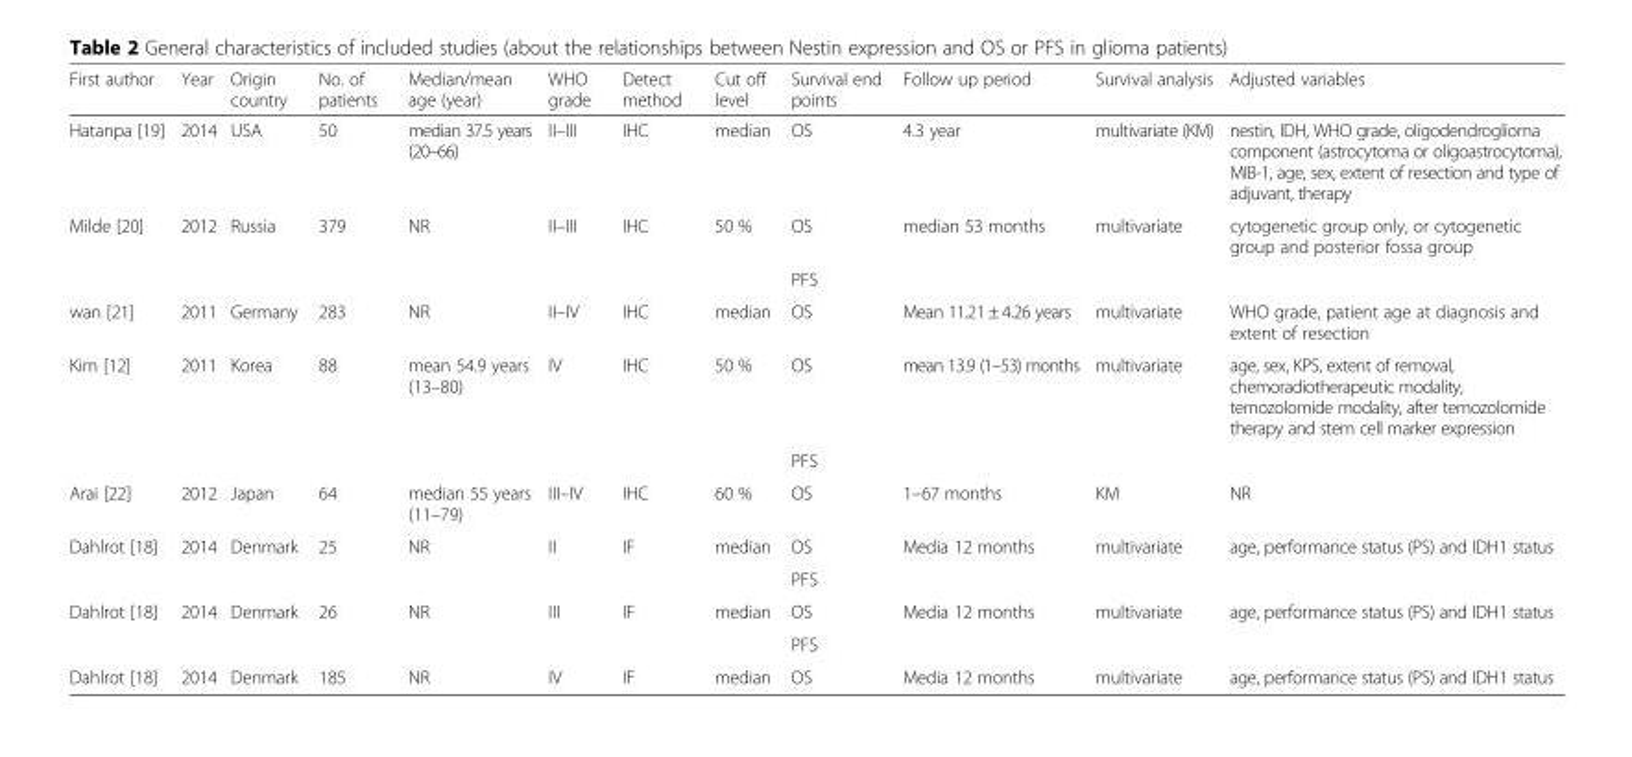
<table><thead><tr><td>First author</td><td>Year</td><td>Origin country</td><td>No. of patients</td><td>Median/mean age (year)</td><td>WHO grade</td><td>Detect method</td><td>Cut off level</td><td>Survival end points</td><td>Follow up period</td><td>Survival analysis</td><td>Adjusted variables</td></tr></thead><tbody><tr><td>Hatanpa [19]</td><td>2014</td><td>USA</td><td>50</td><td>median 37.5 years (20–66)</td><td>II–III</td><td>IHC</td><td>median</td><td>OS</td><td>4.3 year</td><td>multivariate (KM)</td><td>nestin, IDH, WHO grade, oligodendroglioma component (astrocytoma or oligoastrocytoma), MIB-1, age, sex, extent of resection and type of adjuvant, therapy</td></tr><tr><td rowspan="2">Milde [20]</td><td>2012</td><td>Russia</td><td>379</td><td>NR</td><td>II–III</td><td>IHC</td><td>50 %</td><td>OS</td><td>median 53 months</td><td>multivariate</td><td>cytogenetic group only, or cytogenetic group and posterior fossa group</td></tr><tr><td></td><td></td><td></td><td></td><td></td><td></td><td></td><td>PFS</td><td></td><td></td><td></td></tr><tr><td>wan [21]</td><td>2011</td><td>Germany</td><td>283</td><td>NR</td><td>II–IV</td><td>IHC</td><td>median</td><td>OS</td><td>Mean 11.21 ± 4.26 years</td><td>multivariate</td><td>WHO grade, patient age at diagnosis and extent of resection</td></tr><tr><td rowspan="2">Kim [12]</td><td>2011</td><td>Korea</td><td>88</td><td>mean 54.9 years (13–80)</td><td>IV</td><td>IHC</td><td>50 %</td><td>OS</td><td>mean 13.9 (1–53) months</td><td>multivariate</td><td>age, sex, KPS, extent of removal, chemoradiotherapeutic modality, temozolomide modality, after temozolomide therapy and stem cell marker expression</td></tr><tr><td></td><td></td><td></td><td></td><td></td><td></td><td></td><td>PFS</td><td></td><td></td><td></td></tr><tr><td>Arai [22]</td><td>2012</td><td>Japan</td><td>64</td><td>median 55 years (11–79)</td><td>III–IV</td><td>IHC</td><td>60 %</td><td>OS</td><td>1–67 months</td><td>KM</td><td>NR</td></tr><tr><td rowspan="2">Dahlrot [18]</td><td>2014</td><td>Denmark</td><td>25</td><td>NR</td><td>II</td><td>IF</td><td>median</td><td>OS</td><td>Media 12 months</td><td>multivariate</td><td>age, performance status (PS) and IDH1 status</td></tr><tr><td></td><td></td><td></td><td></td><td></td><td></td><td></td><td>PFS</td><td></td><td></td><td></td></tr><tr><td rowspan="2">Dahlrot [18]</td><td>2014</td><td>Denmark</td><td>26</td><td>NR</td><td>III</td><td>IF</td><td>median</td><td>OS</td><td>Media 12 months</td><td>multivariate</td><td>age, performance status (PS) and IDH1 status</td></tr><tr><td></td><td></td><td></td><td></td><td></td><td></td><td></td><td>PFS</td><td></td><td></td><td></td></tr><tr><td>Dahlrot [18]</td><td>2014</td><td>Denmark</td><td>185</td><td>NR</td><td>IV</td><td>IF</td><td>median</td><td>OS</td><td>Media 12 months</td><td>multivariate</td><td>age, performance status (PS) and IDH1 status</td></tr></tbody></table>